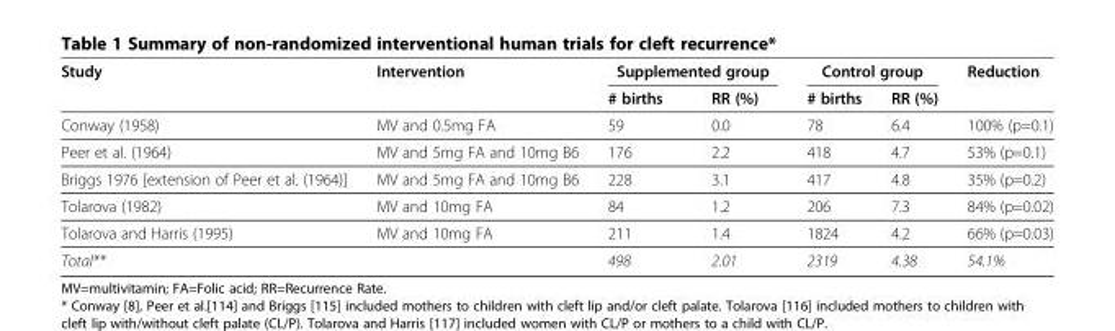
<table><thead><tr><td rowspan="2">Study</td><td rowspan="2">Intervention</td><td colspan="2">Supplemented group</td><td colspan="2">Control group</td><td rowspan="2">Reduction</td></tr><tr><td># births</td><td>RR (%)</td><td># births</td><td>RR (%)</td></tr></thead><tbody><tr><td>Conway (1958)</td><td>MV and 0.5mg FA</td><td>59</td><td>0.0</td><td>78</td><td>6.4</td><td>100% (p=0.1)</td></tr><tr><td>Peer et al. (1964)</td><td>MV and 5mg FA and 10mg B6</td><td>176</td><td>2.2</td><td>418</td><td>4.7</td><td>53% (p=0.1)</td></tr><tr><td>Briggs 1976 [extension of Peer et al. (1964)]</td><td>MV and 5mg FA and 10mg B6</td><td>228</td><td>3.1</td><td>417</td><td>4.8</td><td>35% (p=0.2)</td></tr><tr><td>Tolarova (1982)</td><td>MV and 10mg FA</td><td>84</td><td>1.2</td><td>206</td><td>7.3</td><td>84% (p=0.02)</td></tr><tr><td>Tolarova and Harris (1995)</td><td>MV and 10mg FA</td><td>211</td><td>1.4</td><td>1824</td><td>4.2</td><td>66% (p=0.03)</td></tr><tr><td>Total**</td><td></td><td>498</td><td>2.01</td><td>2319</td><td>4.38</td><td>54.1%</td></tr></tbody></table>